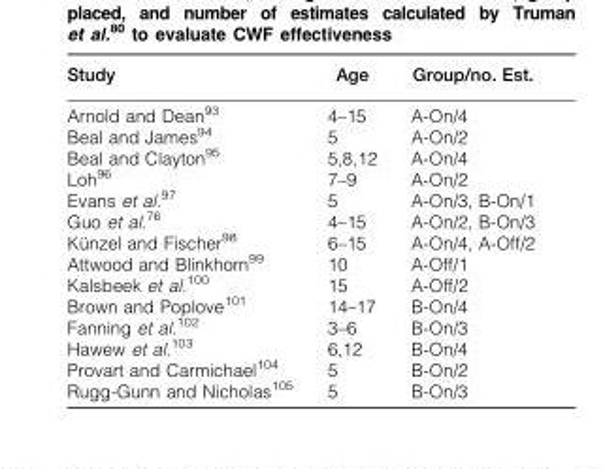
<table><thead><tr><td>Study</td><td>Age</td><td>Group/no. Est.</td></tr></thead><tbody><tr><td>Arnold and Dean<sup>93</sup></td><td>4–15</td><td>A-On/4</td></tr><tr><td>Beal and James<sup>94</sup></td><td>5</td><td>A-On/2</td></tr><tr><td>Beal and Clayton<sup>95</sup></td><td>5,8,12</td><td>A-On/4</td></tr><tr><td>Loh<sup>96</sup></td><td>7–9</td><td>A-On/2</td></tr><tr><td>Evans et al.<sup>97</sup></td><td>5</td><td>A-On/3, B-On/1</td></tr><tr><td>Guo et al.<sup>76</sup></td><td>4–15</td><td>A-On/2, B-On/3</td></tr><tr><td>Ku¨nzel and Fischer98</td><td>6–15</td><td>A-On/4, A-Off/2</td></tr><tr><td>Attwood and Blinkhorn<sup>99</sup></td><td>10</td><td>A-Off/1</td></tr><tr><td>Kalsbeek et al.<sup>100</sup></td><td>15</td><td>A-Off/2</td></tr><tr><td>Brown and Poplove<sup>101</sup></td><td>14–17</td><td>B-On/4</td></tr><tr><td>Fanning et al.<sup>102</sup></td><td>3–6</td><td>B-On/3</td></tr><tr><td>Hawew et al.<sup>103</sup></td><td>6,12</td><td>B-On/4</td></tr><tr><td>Provart and Carmichael<sup>104</sup></td><td>5</td><td>B-On/2</td></tr><tr><td>Rugg-Gunn and Nicholas<sup>105</sup></td><td>5</td><td>B-On/3</td></tr></tbody></table>